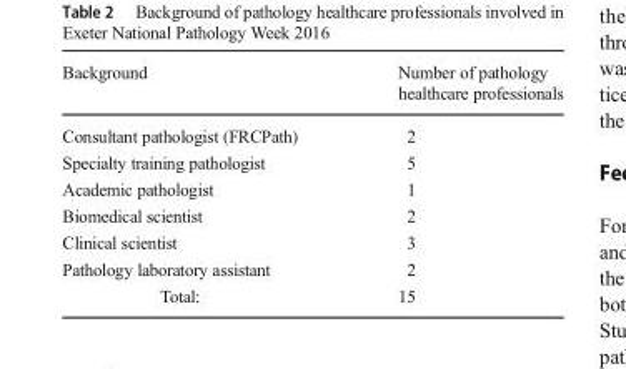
<table><thead><tr><td>Background</td><td>Number of pathology healthcare professionals</td></tr></thead><tbody><tr><td>Consultant pathologist (FRCPath)</td><td>2</td></tr><tr><td>Specialty training pathologist</td><td>5</td></tr><tr><td>Academic pathologist</td><td>1</td></tr><tr><td>Biomedical scientist</td><td>2</td></tr><tr><td>Clinical scientist</td><td>3</td></tr><tr><td>Pathology laboratory assistant</td><td>2</td></tr><tr><td>Total:</td><td>15</td></tr></tbody></table>